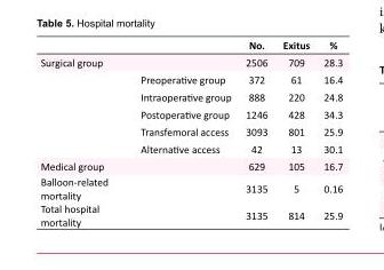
<table><thead><tr><td></td><td></td><td>No.</td><td>Exitus</td><td>%</td></tr></thead><tbody><tr><td rowspan="6">Surgical group</td><td></td><td>2506</td><td>709</td><td>28.3</td></tr><tr><td>Preoperative group</td><td>372</td><td>61</td><td>16.4</td></tr><tr><td>Intraoperative group</td><td>888</td><td>220</td><td>24.8</td></tr><tr><td>Postoperative group</td><td>1246</td><td>428</td><td>34.3</td></tr><tr><td>Transfemoral access</td><td>3093</td><td>801</td><td>25.9</td></tr><tr><td>Alternative access</td><td>42</td><td>13</td><td>30.1</td></tr><tr><td>Medical group</td><td></td><td>629</td><td>105</td><td>16.7</td></tr><tr><td>Balloon-related mortality</td><td></td><td>3135</td><td>5</td><td>0.16</td></tr><tr><td>Total hospital mortality</td><td></td><td>3135</td><td>814</td><td>25.9</td></tr></tbody></table>